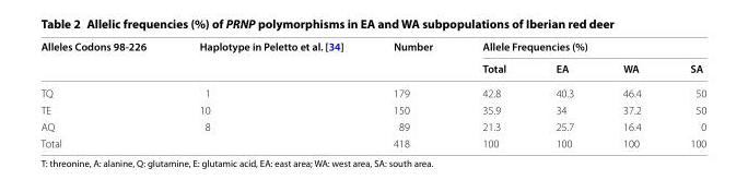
<table><thead><tr><td rowspan="2">Alleles Codons 98‑226</td><td rowspan="2">Haplotype in Peletto et al. [34]</td><td rowspan="2">Number</td><td colspan="4">Allele Frequencies (%)</td></tr><tr><td>Total</td><td>EA</td><td>WA</td><td>SA</td></tr></thead><tbody><tr><td>TQ</td><td>1</td><td>179</td><td>42.8</td><td>40.3</td><td>46.4</td><td>50</td></tr><tr><td>TE</td><td>10</td><td>150</td><td>35.9</td><td>34</td><td>37.2</td><td>50</td></tr><tr><td>AQ</td><td>8</td><td>89</td><td>21.3</td><td>25.7</td><td>16.4</td><td>0</td></tr><tr><td>Total</td><td></td><td>418</td><td>100</td><td>100</td><td>100</td><td>100</td></tr></tbody></table>